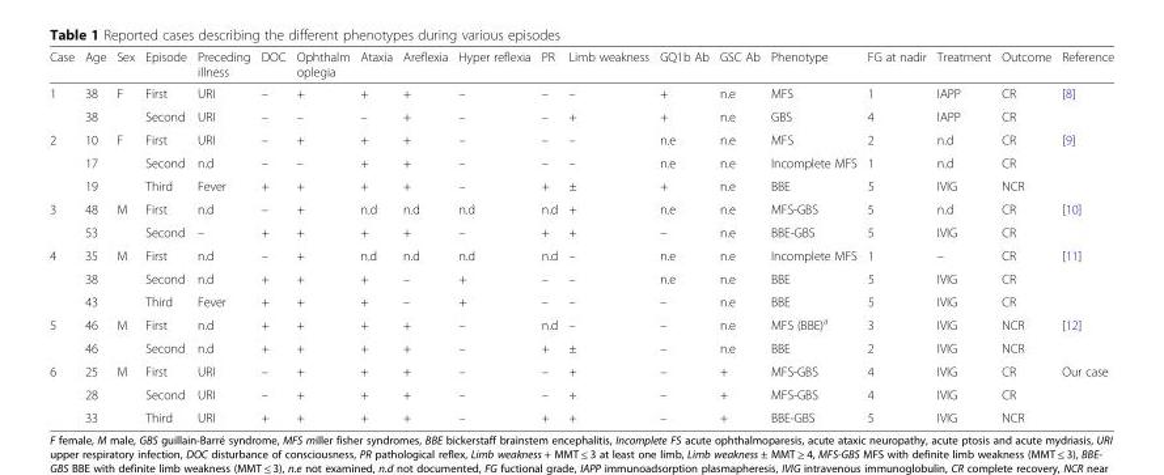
<table><thead><tr><td>Case</td><td>Age</td><td>Sex</td><td>Episode</td><td>Preceding illness</td><td>DOC</td><td>Ophthalm oplegia</td><td>Ataxia</td><td>Areflexia</td><td>Hyper reflexia</td><td>PR</td><td>Limb weakness</td><td>GQ1b Ab</td><td>GSC Ab</td><td>Phenotype</td><td>FG at nadir</td><td>Treatment</td><td>Outcome</td><td>Reference</td></tr></thead><tbody><tr><td rowspan="2">1</td><td>38</td><td rowspan="2">F</td><td>First</td><td>URI</td><td>–</td><td>+</td><td>+</td><td>+</td><td>–</td><td>–</td><td>–</td><td>+</td><td>n.e</td><td>MFS</td><td>1</td><td>IAPP</td><td>CR</td><td rowspan="2">[8]</td></tr><tr><td>38</td><td>Second</td><td>URI</td><td>–</td><td>–</td><td>–</td><td>+</td><td>–</td><td>–</td><td>+</td><td>+</td><td>n.e</td><td>GBS</td><td>4</td><td>IAPP</td><td>CR</td></tr><tr><td rowspan="3">2</td><td>10</td><td rowspan="3">F</td><td>First</td><td>URI</td><td>–</td><td>+</td><td>+</td><td>+</td><td>–</td><td>–</td><td>–</td><td>n.e</td><td>n.e</td><td>MFS</td><td>2</td><td>n.d</td><td>CR</td><td rowspan="3">[9]</td></tr><tr><td>17</td><td>Second</td><td>n.d</td><td>–</td><td>–</td><td>+</td><td>+</td><td>–</td><td>–</td><td>–</td><td>n.e</td><td>n.e</td><td>Incomplete MFS</td><td>1</td><td>n.d</td><td>CR</td></tr><tr><td>19</td><td>Third</td><td>Fever</td><td>+</td><td>+</td><td>+</td><td>+</td><td>–</td><td>+</td><td>±</td><td>+</td><td>n.e</td><td>BBE</td><td>5</td><td>IVIG</td><td>NCR</td></tr><tr><td rowspan="2">3</td><td>48</td><td rowspan="2">M</td><td>First</td><td>n.d</td><td>–</td><td>+</td><td>n.d</td><td>n.d</td><td>n.d</td><td>n.d</td><td>+</td><td>n.e</td><td>n.e</td><td>MFS-GBS</td><td>5</td><td>n.d</td><td>CR</td><td rowspan="2">[10]</td></tr><tr><td>53</td><td>Second</td><td>–</td><td>+</td><td>+</td><td>+</td><td>+</td><td>–</td><td>+</td><td>+</td><td>–</td><td>n.e</td><td>BBE-GBS</td><td>5</td><td>IVIG</td><td>CR</td></tr><tr><td rowspan="3">4</td><td>35</td><td rowspan="3">M</td><td>First</td><td>n.d</td><td>–</td><td>+</td><td>n.d</td><td>n.d</td><td>n.d</td><td>n.d</td><td>–</td><td>n.e</td><td>n.e</td><td>Incomplete MFS</td><td>1</td><td>–</td><td>CR</td><td rowspan="3">[11]</td></tr><tr><td>38</td><td>Second</td><td>n.d</td><td>+</td><td>+</td><td>+</td><td>–</td><td>+</td><td>–</td><td>–</td><td>n.e</td><td>n.e</td><td>BBE</td><td>5</td><td>IVIG</td><td>CR</td></tr><tr><td>43</td><td>Third</td><td>Fever</td><td>+</td><td>+</td><td>+</td><td>–</td><td>+</td><td>–</td><td>–</td><td>–</td><td>n.e</td><td>BBE</td><td>5</td><td>IVIG</td><td>CR</td></tr><tr><td rowspan="2">5</td><td>46</td><td rowspan="2">M</td><td>First</td><td>n.d</td><td>+</td><td>+</td><td>+</td><td>+</td><td>–</td><td>n.d</td><td>–</td><td>–</td><td>n.e</td><td>MFS (BBE)<sup>a</sup></td><td>3</td><td>IVIG</td><td>NCR</td><td rowspan="2">[12]</td></tr><tr><td>46</td><td>Second</td><td>n.d</td><td>+</td><td>+</td><td>+</td><td>+</td><td>–</td><td>+</td><td>±</td><td>–</td><td>n.e</td><td>BBE</td><td>2</td><td>IVIG</td><td>NCR</td></tr><tr><td rowspan="3">6</td><td>25</td><td rowspan="3">M</td><td>First</td><td>URI</td><td>–</td><td>+</td><td>+</td><td>+</td><td>–</td><td>–</td><td>+</td><td>–</td><td>+</td><td>MFS-GBS</td><td>4</td><td>IVIG</td><td>CR</td><td rowspan="3">Our case</td></tr><tr><td>28</td><td>Second</td><td>URI</td><td>–</td><td>+</td><td>+</td><td>+</td><td>–</td><td>–</td><td>+</td><td>–</td><td>+</td><td>MFS-GBS</td><td>4</td><td>IVIG</td><td>CR</td></tr><tr><td>33</td><td>Third</td><td>URI</td><td>+</td><td>+</td><td>+</td><td>+</td><td>–</td><td>+</td><td>+</td><td>–</td><td>+</td><td>BBE-GBS</td><td>5</td><td>IVIG</td><td>NCR</td></tr></tbody></table>